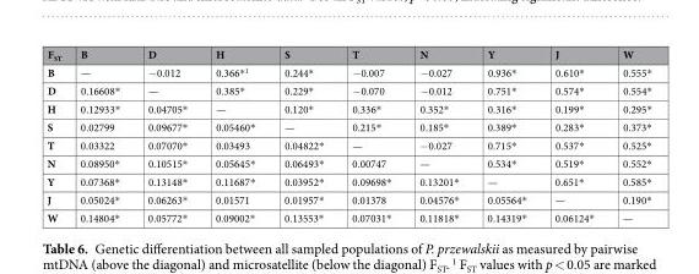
<table><thead><tr><td>F<sub>ST</sub></td><td>B</td><td>D</td><td>H</td><td>S</td><td>T</td><td>N</td><td>Y</td><td>J</td><td>W</td></tr></thead><tbody><tr><td>B</td><td>—</td><td>−0.012</td><td>0.366*<sup>1</sup></td><td>0.244*</td><td>−0.007</td><td>−0.027</td><td>0.936*</td><td>0.610*</td><td>0.555*</td></tr><tr><td>D</td><td>0.16608*</td><td>—</td><td>0.385*</td><td>0.229*</td><td>−0.070</td><td>−0.012</td><td>0.751*</td><td>0.574*</td><td>0.554*</td></tr><tr><td>H</td><td>0.12933*</td><td>0.04705*</td><td>—</td><td>0.120*</td><td>0.336*</td><td>0.352*</td><td>0.316*</td><td>0.199*</td><td>0.295*</td></tr><tr><td>S</td><td>0.02799</td><td>0.09677*</td><td>0.05460*</td><td>—</td><td>0.215*</td><td>0.185*</td><td>0.389*</td><td>0.283*</td><td>0.373*</td></tr><tr><td>T</td><td>0.03322</td><td>0.07070*</td><td>0.03493</td><td>0.04822*</td><td>—</td><td>−0.027</td><td>0.715*</td><td>0.537*</td><td>0.525*</td></tr><tr><td>N</td><td>0.08950*</td><td>0.10515*</td><td>0.05645*</td><td>0.06493*</td><td>0.00747</td><td>—</td><td>0.534*</td><td>0.519*</td><td>0.552*</td></tr><tr><td>Y</td><td>0.07368*</td><td>0.13148*</td><td>0.11687*</td><td>0.03952*</td><td>0.09698*</td><td>0.13201*</td><td>—</td><td>0.651*</td><td>0.585*</td></tr><tr><td>J</td><td>0.05024*</td><td>0.06263*</td><td>0.01571</td><td>0.01957*</td><td>0.01378</td><td>0.04576*</td><td>0.05564*</td><td>—</td><td>0.190*</td></tr><tr><td>W</td><td>0.14804*</td><td>0.05772*</td><td>0.09002*</td><td>0.13553*</td><td>0.07031*</td><td>0.11818*</td><td>0.14319*</td><td>0.06124*</td><td>—</td></tr></tbody></table>